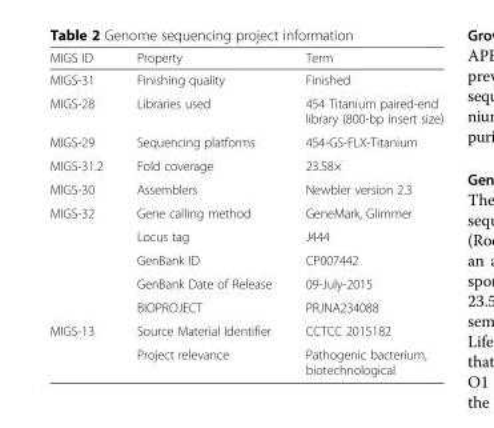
<table><thead><tr><td>MIGS ID</td><td>Property</td><td>Term</td></tr></thead><tbody><tr><td>MIGS-31</td><td>Finishing quality</td><td>Finished</td></tr><tr><td>MIGS-28</td><td>Libraries used</td><td>454 Titanium paired-end library (800-bp insert size)</td></tr><tr><td>MIGS-29</td><td>Sequencing platforms</td><td>454-GS-FLX-Titanium</td></tr><tr><td>MIGS-31.2</td><td>Fold coverage</td><td>23.58×</td></tr><tr><td>MIGS-30</td><td>Assemblers</td><td>Newbler version 2.3</td></tr><tr><td rowspan="5">MIGS-32</td><td>Gene calling method</td><td>GeneMark, Glimmer</td></tr><tr><td>Locus tag</td><td>J444</td></tr><tr><td>GenBank ID</td><td>CP007442</td></tr><tr><td>GenBank Date of Release</td><td>09-July-2015</td></tr><tr><td>BIOPROJECT</td><td>PRJNA234088</td></tr><tr><td rowspan="2">MIGS-13</td><td>Source Material Identifier</td><td>CCTCC 2015182</td></tr><tr><td>Project relevance</td><td>Pathogenic bacterium, biotechnological</td></tr></tbody></table>